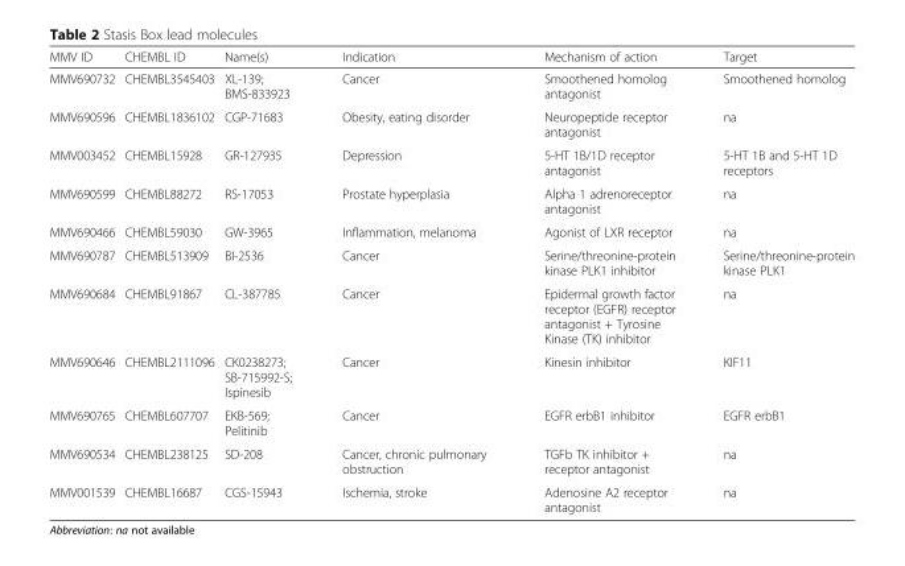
<table><thead><tr><td>MMV ID</td><td>CHEMBL ID</td><td>Name(s)</td><td>Indication</td><td>Mechanism of action</td><td>Target</td></tr></thead><tbody><tr><td>MMV690732</td><td>CHEMBL3545403</td><td>XL-139; BMS-833923</td><td>Cancer</td><td>Smoothened homolog antagonist</td><td>Smoothened homolog</td></tr><tr><td>MMV690596</td><td>CHEMBL1836102</td><td>CGP-71683</td><td>Obesity, eating disorder</td><td>Neuropeptide receptor antagonist</td><td>na</td></tr><tr><td>MMV003452</td><td>CHEMBL15928</td><td>GR-127935</td><td>Depression</td><td>5-HT 1B/1D receptor antagonist</td><td>5-HT 1B and 5-HT 1D receptors</td></tr><tr><td>MMV690599</td><td>CHEMBL88272</td><td>RS-17053</td><td>Prostate hyperplasia</td><td>Alpha 1 adrenoreceptor antagonist</td><td>na</td></tr><tr><td>MMV690466</td><td>CHEMBL59030</td><td>GW-3965</td><td>Inflammation, melanoma</td><td>Agonist of LXR receptor</td><td>na</td></tr><tr><td>MMV690787</td><td>CHEMBL513909</td><td>BI-2536</td><td>Cancer</td><td>Serine/threonine-protein kinase PLK1 inhibitor</td><td>Serine/threonine-protein kinase PLK1</td></tr><tr><td>MMV690684</td><td>CHEMBL91867</td><td>CL-387785</td><td>Cancer</td><td>Epidermal growth factor receptor (EGFR) receptor antagonist + Tyrosine Kinase (TK) inhibitor</td><td>na</td></tr><tr><td>MMV690646</td><td>CHEMBL2111096</td><td>CK0238273; SB-715992-S; Ispinesib</td><td>Cancer</td><td>Kinesin inhibitor</td><td>KIF11</td></tr><tr><td>MMV690765</td><td>CHEMBL607707</td><td>EKB-569; Pelitinib</td><td>Cancer</td><td>EGFR erbB1 inhibitor</td><td>EGFR erbB1</td></tr><tr><td>MMV690534</td><td>CHEMBL238125</td><td>SD-208</td><td>Cancer, chronic pulmonary obstruction</td><td>TGFb TK inhibitor + receptor antagonist</td><td>na</td></tr><tr><td>MMV001539</td><td>CHEMBL16687</td><td>CGS-15943</td><td>Ischemia, stroke</td><td>Adenosine A2 receptor antagonist</td><td>na</td></tr></tbody></table>